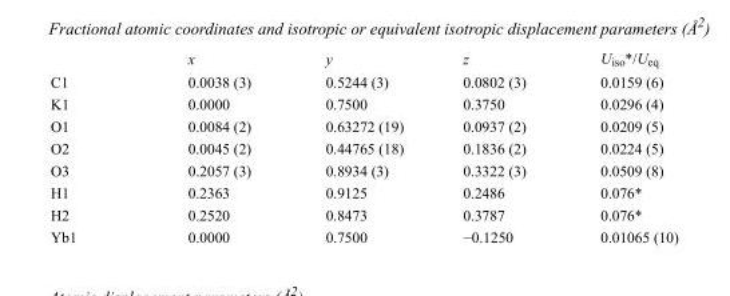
<table><thead><tr><td></td><td>x</td><td>y</td><td>z</td><td>U<sub>iso</sub>*/U<sub>eq</sub></td></tr></thead><tbody><tr><td>C1</td><td>0.0038 (3)</td><td>0.5244 (3)</td><td>0.0802 (3)</td><td>0.0159 (6)</td></tr><tr><td>K1</td><td>0.0000</td><td>0.7500</td><td>0.3750</td><td>0.0296 (4)</td></tr><tr><td>O1</td><td>0.0084 (2)</td><td>0.63272 (19)</td><td>0.0937 (2)</td><td>0.0209 (5)</td></tr><tr><td>O2</td><td>0.0045 (2)</td><td>0.44765 (18)</td><td>0.1836 (2)</td><td>0.0224 (5)</td></tr><tr><td>O3</td><td>0.2057 (3)</td><td>0.8934 (3)</td><td>0.3322 (3)</td><td>0.0509 (8)</td></tr><tr><td>H1</td><td>0.2363</td><td>0.9125</td><td>0.2486</td><td>0.076*</td></tr><tr><td>H2</td><td>0.2520</td><td>0.8473</td><td>0.3787</td><td>0.076*</td></tr><tr><td>Yb1</td><td>0.0000</td><td>0.7500</td><td>−0.1250</td><td>0.01065 (10)</td></tr></tbody></table>